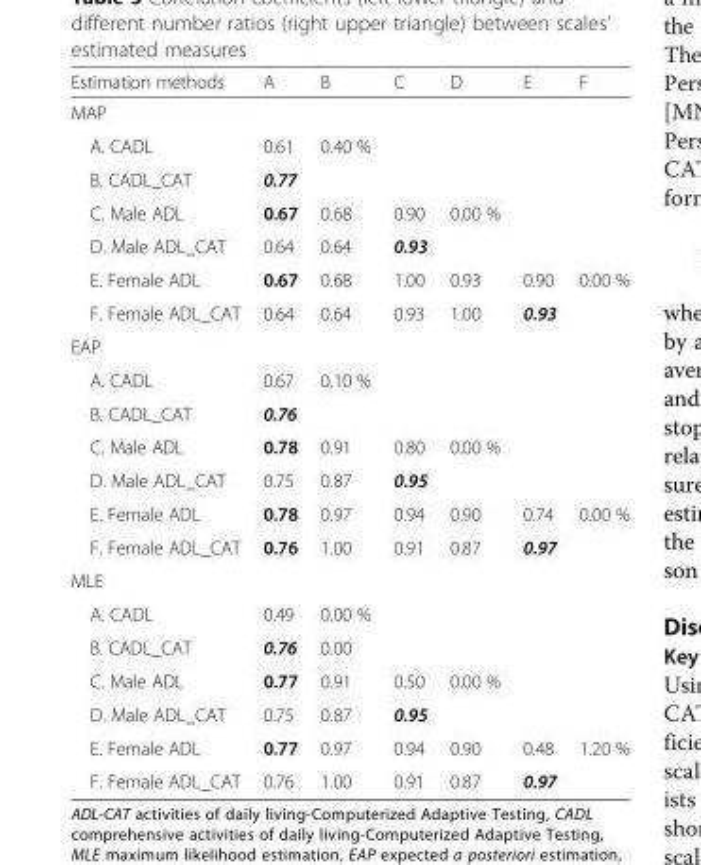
<table><thead><tr><td>Estimation methods</td><td>A</td><td>B</td><td>C</td><td>D</td><td>E</td><td>F</td></tr></thead><tbody><tr><td colspan="7">MAP</td></tr><tr><td>A. CADL</td><td>0.61</td><td>0.40 %</td><td></td><td></td><td></td><td></td></tr><tr><td>B. CADL_CAT</td><td>0.77</td><td></td><td></td><td></td><td></td><td></td></tr><tr><td>C. Male ADL</td><td>0.67</td><td>0.68</td><td>0.90</td><td>0.00 %</td><td></td><td></td></tr><tr><td>D. Male ADL_CAT</td><td>0.64</td><td>0.64</td><td>0.93</td><td></td><td></td><td></td></tr><tr><td>E. Female ADL</td><td>0.67</td><td>0.68</td><td>1.00</td><td>0.93</td><td>0.90</td><td>0.00 %</td></tr><tr><td>F. Female ADL_CAT</td><td>0.64</td><td>0.64</td><td>0.93</td><td>1.00</td><td>0.93</td><td></td></tr><tr><td colspan="7">EAP</td></tr><tr><td>A. CADL</td><td>0.67</td><td>0.10 %</td><td></td><td></td><td></td><td></td></tr><tr><td>B. CADL_CAT</td><td>0.76</td><td></td><td></td><td></td><td></td><td></td></tr><tr><td>C. Male ADL</td><td>0.78</td><td>0.91</td><td>0.80</td><td>0.00 %</td><td></td><td></td></tr><tr><td>D. Male ADL_CAT</td><td>0.75</td><td>0.87</td><td>0.95</td><td></td><td></td><td></td></tr><tr><td>E. Female ADL</td><td>0.78</td><td>0.97</td><td>0.94</td><td>0.90</td><td>0.74</td><td>0.00 %</td></tr><tr><td>F. Female ADL_CAT</td><td>0.76</td><td>1.00</td><td>0.91</td><td>0.87</td><td>0.97</td><td></td></tr><tr><td colspan="7">MLE</td></tr><tr><td>A. CADL</td><td>0.49</td><td>0.00 %</td><td></td><td></td><td></td><td></td></tr><tr><td>B. CADL_CAT</td><td>0.76</td><td>0.00</td><td></td><td></td><td></td><td></td></tr><tr><td>C. Male ADL</td><td>0.77</td><td>0.91</td><td>0.50</td><td>0.00 %</td><td></td><td></td></tr><tr><td>D. Male ADL_CAT</td><td>0.75</td><td>0.87</td><td>0.95</td><td></td><td></td><td></td></tr><tr><td>E. Female ADL</td><td>0.77</td><td>0.97</td><td>0.94</td><td>0.90</td><td>0.48</td><td>1.20 %</td></tr><tr><td>F. Female ADL_CAT</td><td>0.76</td><td>1.00</td><td>0.91</td><td>0.87</td><td>0.97</td><td></td></tr></tbody></table>